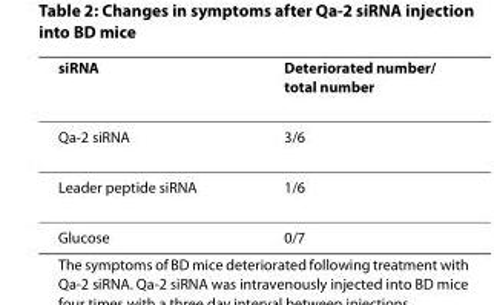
<table><thead><tr><td>siRNA</td><td>Deteriorated number/ total number</td></tr></thead><tbody><tr><td>Qa-2 siRNA</td><td>3/6</td></tr><tr><td>Leader peptide siRNA</td><td>1/6</td></tr><tr><td>Glucose</td><td>0/7</td></tr></tbody></table>